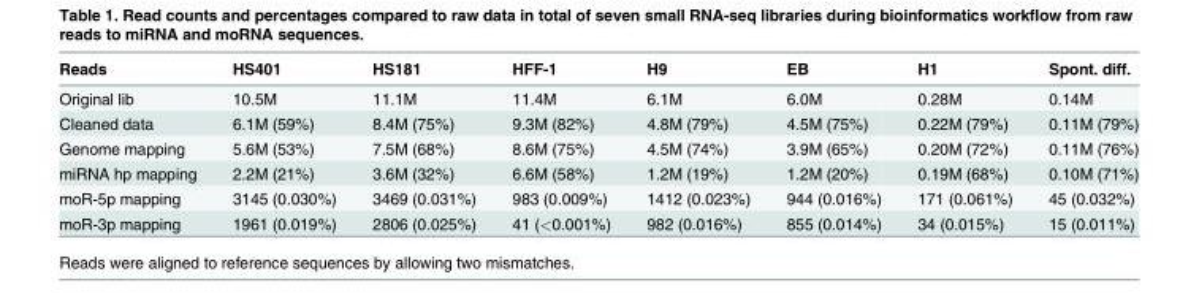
<table><thead><tr><td>Reads</td><td>HS401</td><td>HS181</td><td>HFF-1</td><td>H9</td><td>EB</td><td>H1</td><td>Spont. diff.</td></tr></thead><tbody><tr><td>Original lib</td><td>10.5M</td><td>11.1M</td><td>11.4M</td><td>6.1M</td><td>6.0M</td><td>0.28M</td><td>0.14M</td></tr><tr><td>Cleaned data</td><td>6.1M (59%)</td><td>8.4M (75%)</td><td>9.3M (82%)</td><td>4.8M (79%)</td><td>4.5M (75%)</td><td>0.22M (79%)</td><td>0.11M (79%)</td></tr><tr><td>Genome mapping</td><td>5.6M (53%)</td><td>7.5M (68%)</td><td>8.6M (75%)</td><td>4.5M (74%)</td><td>3.9M (65%)</td><td>0.20M (72%)</td><td>0.11M (76%)</td></tr><tr><td>miRNA hp mapping</td><td>2.2M (21%)</td><td>3.6M (32%)</td><td>6.6M (58%)</td><td>1.2M (19%)</td><td>1.2M (20%)</td><td>0.19M (68%)</td><td>0.10M (71%)</td></tr><tr><td>moR-5p mapping</td><td>3145 (0.030%)</td><td>3469 (0.031%)</td><td>983 (0.009%)</td><td>1412 (0.023%)</td><td>944 (0.016%)</td><td>171 (0.061%)</td><td>45 (0.032%)</td></tr><tr><td>moR-3p mapping</td><td>1961 (0.019%)</td><td>2806 (0.025%)</td><td>41 (&lt;0.001%)</td><td>982 (0.016%)</td><td>855 (0.014%)</td><td>34 (0.015%)</td><td>15 (0.011%)</td></tr></tbody></table>